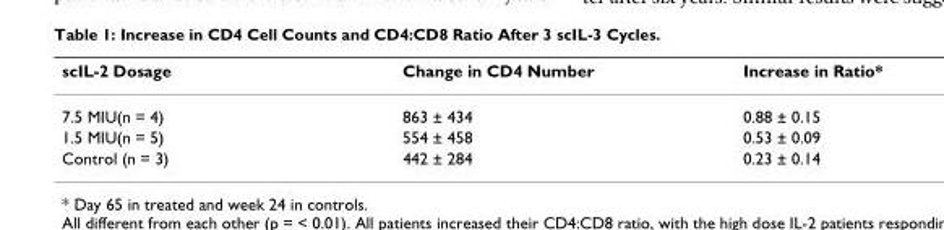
<table><thead><tr><td>scIL-2 Dosage</td><td>Change in CD4 Number</td><td>Increase in Ratio*</td></tr></thead><tbody><tr><td>7.5 MIU(n = 4)</td><td>863 ± 434</td><td>0.88 ± 0.15</td></tr><tr><td>1.5 MIU(n = 5)</td><td>554 ± 458</td><td>0.53 ± 0.09</td></tr><tr><td>Control (n = 3)</td><td>442 ± 284</td><td>0.23 ± 0.14</td></tr></tbody></table>